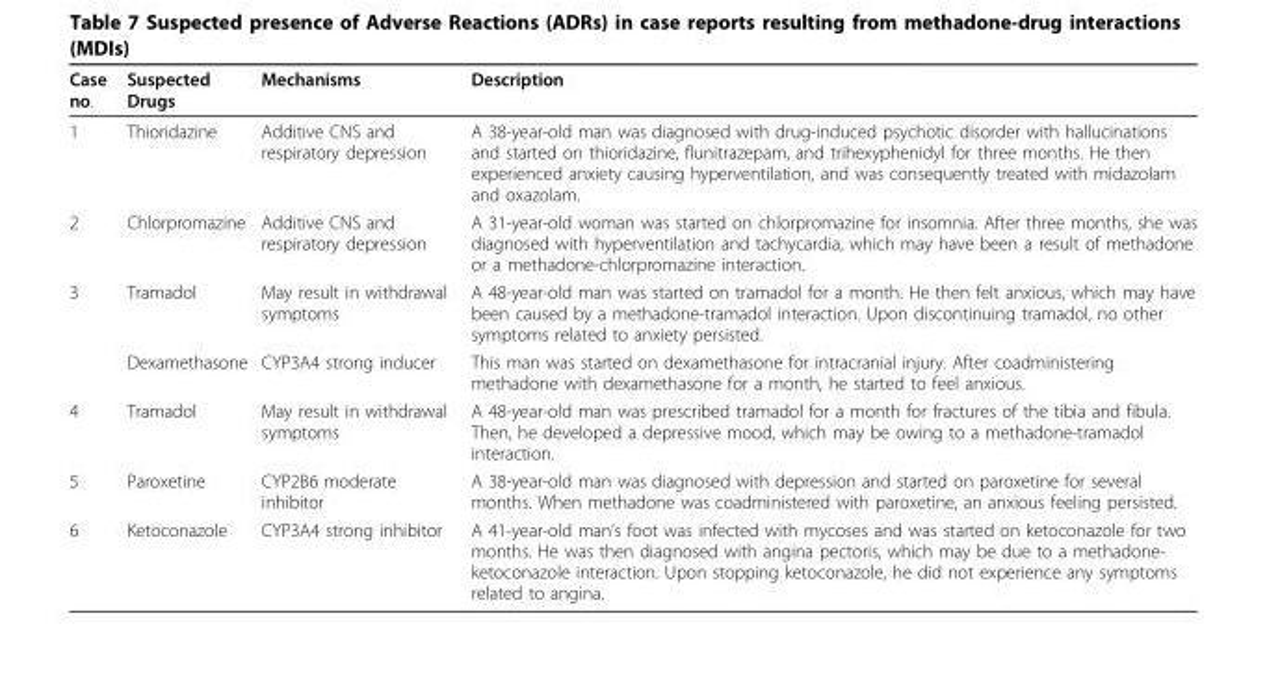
<table><thead><tr><td>Case no.</td><td>Suspected Drugs</td><td>Mechanisms</td><td>Description</td></tr></thead><tbody><tr><td>1</td><td>Thioridazine</td><td>Additive CNS and respiratory depression</td><td>A 38-year-old man was diagnosed with drug-induced psychotic disorder with hallucinations and started on thioridazine, flunitrazepam, and trihexyphenidyl for three months. He then experienced anxiety causing hyperventilation, and was consequently treated with midazolam and oxazolam.</td></tr><tr><td>2</td><td>Chlorpromazine</td><td>Additive CNS and respiratory depression</td><td>A 31-year-old woman was started on chlorpromazine for insomnia. After three months, she was diagnosed with hyperventilation and tachycardia, which may have been a result of methadone or a methadone-chlorpromazine interaction.</td></tr><tr><td rowspan="2">3</td><td>Tramadol</td><td>May result in withdrawal symptoms</td><td>A 48-year-old man was started on tramadol for a month. He then felt anxious, which may have been caused by a methadone-tramadol interaction. Upon discontinuing tramadol, no other symptoms related to anxiety persisted.</td></tr><tr><td>Dexamethasone</td><td>CYP3A4 strong inducer</td><td>This man was started on dexamethasone for intracranial injury. After coadministering methadone with dexamethasone for a month, he started to feel anxious.</td></tr><tr><td>4</td><td>Tramadol</td><td>May result in withdrawal symptoms</td><td>A 48-year-old man was prescribed tramadol for a month for fractures of the tibia and fibula. Then, he developed a depressive mood, which may be owing to a methadone-tramadol interaction.</td></tr><tr><td>5</td><td>Paroxetine</td><td>CYP2B6 moderate inhibitor</td><td>A 38-year-old man was diagnosed with depression and started on paroxetine for several months. When methadone was coadministered with paroxetine, an anxious feeling persisted.</td></tr><tr><td>6</td><td>Ketoconazole</td><td>CYP3A4 strong inhibitor</td><td>A 41-year-old man’s foot was infected with mycoses and was started on ketoconazole for two months. He was then diagnosed with angina pectoris, which may be due to a methadone- ketoconazole interaction. Upon stopping ketoconazole, he did not experience any symptoms related to angina.</td></tr></tbody></table>